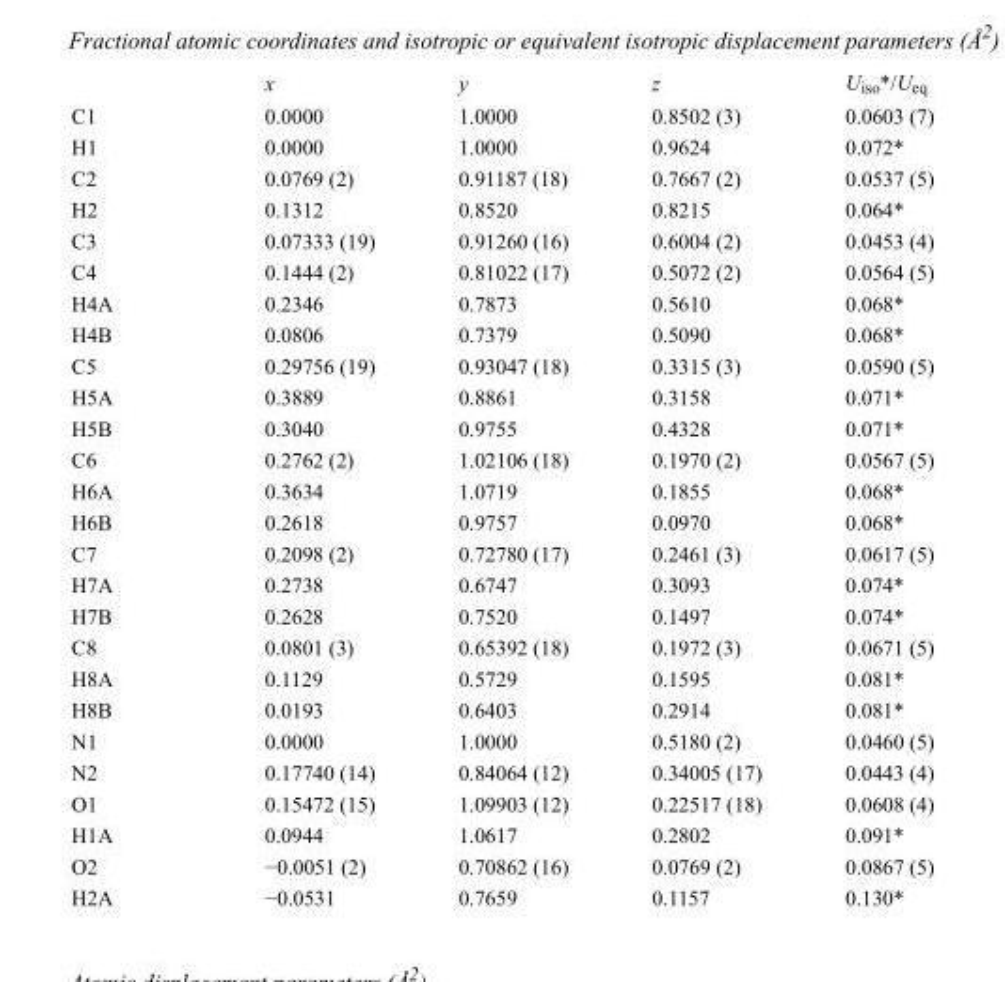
<table><thead><tr><td></td><td>x</td><td>y</td><td>z</td><td>U<sub>iso</sub>*/U<sub>eq</sub></td></tr></thead><tbody><tr><td>C1</td><td>0.0000</td><td>1.0000</td><td>0.8502 (3)</td><td>0.0603 (7)</td></tr><tr><td>H1</td><td>0.0000</td><td>1.0000</td><td>0.9624</td><td>0.072*</td></tr><tr><td>C2</td><td>0.0769 (2)</td><td>0.91187 (18)</td><td>0.7667 (2)</td><td>0.0537 (5)</td></tr><tr><td>H2</td><td>0.1312</td><td>0.8520</td><td>0.8215</td><td>0.064*</td></tr><tr><td>C3</td><td>0.07333 (19)</td><td>0.91260 (16)</td><td>0.6004 (2)</td><td>0.0453 (4)</td></tr><tr><td>C4</td><td>0.1444 (2)</td><td>0.81022 (17)</td><td>0.5072 (2)</td><td>0.0564 (5)</td></tr><tr><td>H4A</td><td>0.2346</td><td>0.7873</td><td>0.5610</td><td>0.068*</td></tr><tr><td>H4B</td><td>0.0806</td><td>0.7379</td><td>0.5090</td><td>0.068*</td></tr><tr><td>C5</td><td>0.29756 (19)</td><td>0.93047 (18)</td><td>0.3315 (3)</td><td>0.0590 (5)</td></tr><tr><td>H5A</td><td>0.3889</td><td>0.8861</td><td>0.3158</td><td>0.071*</td></tr><tr><td>H5B</td><td>0.3040</td><td>0.9755</td><td>0.4328</td><td>0.071*</td></tr><tr><td>C6</td><td>0.2762 (2)</td><td>1.02106 (18)</td><td>0.1970 (2)</td><td>0.0567 (5)</td></tr><tr><td>H6A</td><td>0.3634</td><td>1.0719</td><td>0.1855</td><td>0.068*</td></tr><tr><td>H6B</td><td>0.2618</td><td>0.9757</td><td>0.0970</td><td>0.068*</td></tr><tr><td>C7</td><td>0.2098 (2)</td><td>0.72780 (17)</td><td>0.2461 (3)</td><td>0.0617 (5)</td></tr><tr><td>H7A</td><td>0.2738</td><td>0.6747</td><td>0.3093</td><td>0.074*</td></tr><tr><td>H7B</td><td>0.2628</td><td>0.7520</td><td>0.1497</td><td>0.074*</td></tr><tr><td>C8</td><td>0.0801 (3)</td><td>0.65392 (18)</td><td>0.1972 (3)</td><td>0.0671 (5)</td></tr><tr><td>H8A</td><td>0.1129</td><td>0.5729</td><td>0.1595</td><td>0.081*</td></tr><tr><td>H8B</td><td>0.0193</td><td>0.6403</td><td>0.2914</td><td>0.081*</td></tr><tr><td>N1</td><td>0.0000</td><td>1.0000</td><td>0.5180 (2)</td><td>0.0460 (5)</td></tr><tr><td>N2</td><td>0.17740 (14)</td><td>0.84064 (12)</td><td>0.34005 (17)</td><td>0.0443 (4)</td></tr><tr><td>O1</td><td>0.15472 (15)</td><td>1.09903 (12)</td><td>0.22517 (18)</td><td>0.0608 (4)</td></tr><tr><td>H1A</td><td>0.0944</td><td>1.0617</td><td>0.2802</td><td>0.091*</td></tr><tr><td>O2</td><td>−0.0051 (2)</td><td>0.70862 (16)</td><td>0.0769 (2)</td><td>0.0867 (5)</td></tr><tr><td>H2A</td><td>−0.0531</td><td>0.7659</td><td>0.1157</td><td>0.130*</td></tr></tbody></table>